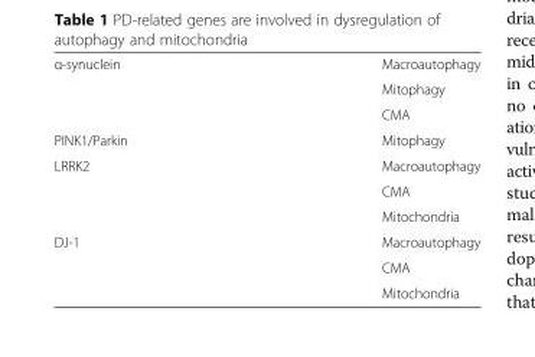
<table><tbody><tr><td rowspan="3">α-synuclein</td><td>Macroautophagy</td></tr><tr><td>Mitophagy</td></tr><tr><td>CMA</td></tr><tr><td>PINK1/Parkin</td><td>Mitophagy</td></tr><tr><td rowspan="3">LRRK2</td><td>Macroautophagy</td></tr><tr><td>CMA</td></tr><tr><td>Mitochondria</td></tr><tr><td rowspan="3">DJ-1</td><td>Macroautophagy</td></tr><tr><td>CMA</td></tr><tr><td>Mitochondria</td></tr></tbody></table>